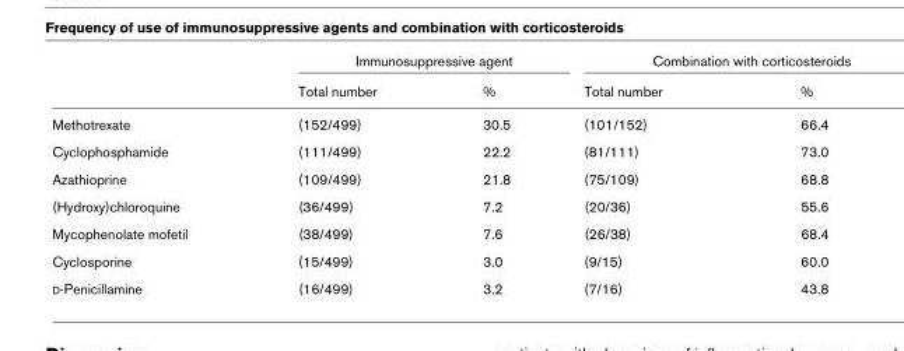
<table><thead><tr><td rowspan="2"></td><td colspan="2">Immunosuppressive agent</td><td colspan="2">Combination with corticosteroids</td></tr><tr><td>Total number</td><td>%</td><td>Total number</td><td>%</td></tr></thead><tbody><tr><td>Methotrexate</td><td>(152/499)</td><td>30.5</td><td>(101/152)</td><td>66.4</td></tr><tr><td>Cyclophosphamide</td><td>(111/499)</td><td>22.2</td><td>(81/111)</td><td>73.0</td></tr><tr><td>Azathioprine</td><td>(109/499)</td><td>21.8</td><td>(75/109)</td><td>68.8</td></tr><tr><td>(Hydroxy)chloroquine</td><td>(36/499)</td><td>7.2</td><td>(20/36)</td><td>55.6</td></tr><tr><td>Mycophenolate mofetil</td><td>(38/499)</td><td>7.6</td><td>(26/38)</td><td>68.4</td></tr><tr><td>Cyclosporine</td><td>(15/499)</td><td>3.0</td><td>(9/15)</td><td>60.0</td></tr><tr><td>D-Penicillamine</td><td>(16/499)</td><td>3.2</td><td>(7/16)</td><td>43.8</td></tr></tbody></table>